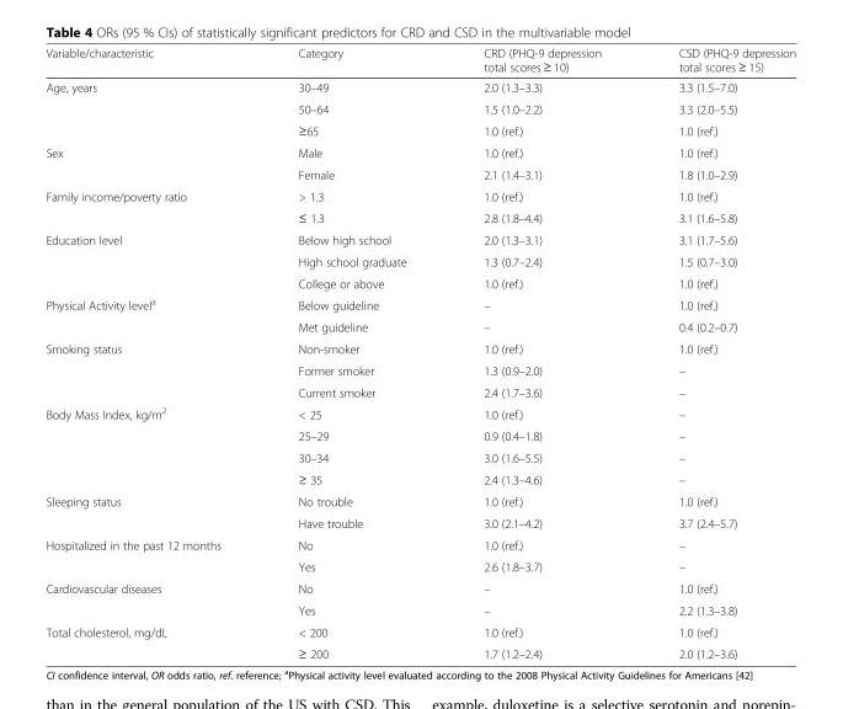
<table><thead><tr><td>Variable/characteristic</td><td>Category</td><td>CRD (PHQ-9 depression total scores ≥ 10)</td><td>CSD (PHQ-9 depression total scores ≥ 15)</td></tr></thead><tbody><tr><td rowspan="3">Age, years</td><td>30–49</td><td>2.0 (1.3–3.3)</td><td>3.3 (1.5–7.0)</td></tr><tr><td>50–64</td><td>1.5 (1.0–2.2)</td><td>3.3 (2.0–5.5)</td></tr><tr><td>≥65</td><td>1.0 (ref.)</td><td>1.0 (ref.)</td></tr><tr><td rowspan="2">Sex</td><td>Male</td><td>1.0 (ref.)</td><td>1.0 (ref.)</td></tr><tr><td>Female</td><td>2.1 (1.4–3.1)</td><td>1.8 (1.0–2.9)</td></tr><tr><td rowspan="2">Family income/poverty ratio</td><td>&gt; 1.3</td><td>1.0 (ref.)</td><td>1.0 (ref.)</td></tr><tr><td>≤ 1.3</td><td>2.8 (1.8–4.4)</td><td>3.1 (1.6–5.8)</td></tr><tr><td rowspan="3">Education level</td><td>Below high school</td><td>2.0 (1.3–3.1)</td><td>3.1 (1.7–5.6)</td></tr><tr><td>High school graduate</td><td>1.3 (0.7–2.4)</td><td>1.5 (0.7–3.0)</td></tr><tr><td>College or above</td><td>1.0 (ref.)</td><td>1.0 (ref.)</td></tr><tr><td rowspan="2">Physical Activity level<sup>a</sup></td><td>Below guideline</td><td>–</td><td>1.0 (ref.)</td></tr><tr><td>Met guideline</td><td>–</td><td>0.4 (0.2–0.7)</td></tr><tr><td rowspan="3">Smoking status</td><td>Non-smoker</td><td>1.0 (ref.)</td><td>1.0 (ref.)</td></tr><tr><td>Former smoker</td><td>1.3 (0.9–2.0)</td><td>–</td></tr><tr><td>Current smoker</td><td>2.4 (1.7–3.6)</td><td>–</td></tr><tr><td rowspan="4">Body Mass Index, kg/m<sup>2</sup></td><td>&lt; 25</td><td>1.0 (ref.)</td><td>–</td></tr><tr><td>25–29</td><td>0.9 (0.4–1.8)</td><td>–</td></tr><tr><td>30–34</td><td>3.0 (1.6–5.5)</td><td>–</td></tr><tr><td>≥ 35</td><td>2.4 (1.3–4.6)</td><td>–</td></tr><tr><td rowspan="2">Sleeping status</td><td>No trouble</td><td>1.0 (ref.)</td><td>1.0 (ref.)</td></tr><tr><td>Have trouble</td><td>3.0 (2.1–4.2)</td><td>3.7 (2.4–5.7)</td></tr><tr><td rowspan="2">Hospitalized in the past 12 months</td><td>No</td><td>1.0 (ref.)</td><td>–</td></tr><tr><td>Yes</td><td>2.6 (1.8–3.7)</td><td>–</td></tr><tr><td rowspan="2">Cardiovascular diseases</td><td>No</td><td>–</td><td>1.0 (ref.)</td></tr><tr><td>Yes</td><td>–</td><td>2.2 (1.3–3.8)</td></tr><tr><td rowspan="2">Total cholesterol, mg/dL</td><td>&lt; 200</td><td>1.0 (ref.)</td><td>1.0 (ref.)</td></tr><tr><td>≥ 200</td><td>1.7 (1.2–2.4)</td><td>2.0 (1.2–3.6)</td></tr></tbody></table>